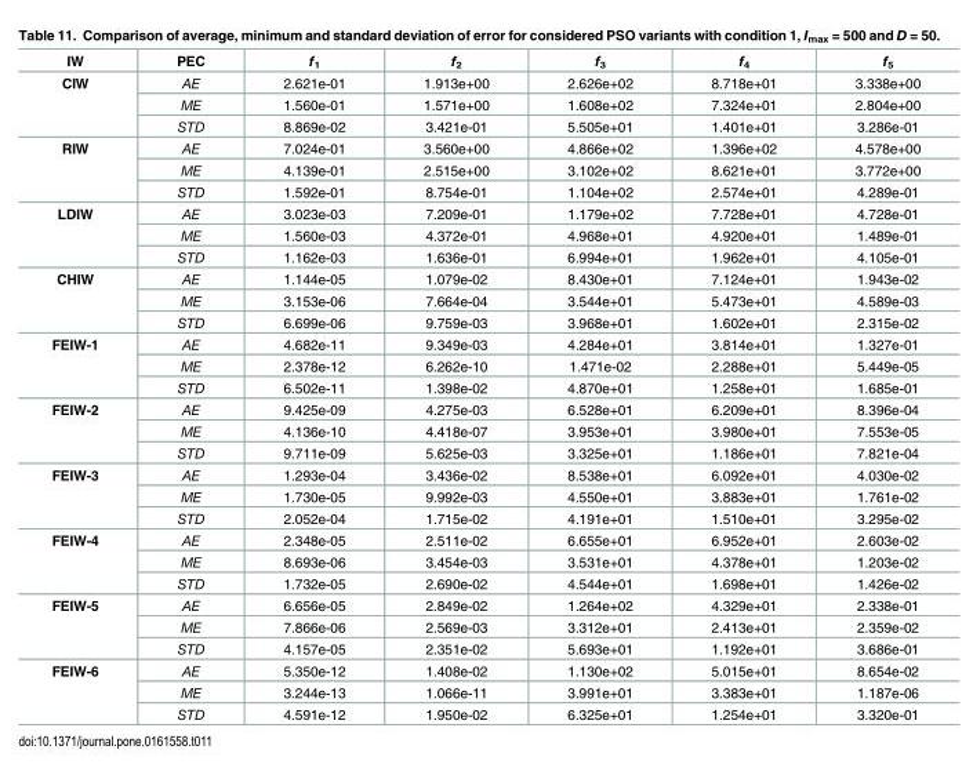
<table><thead><tr><td>IW</td><td>PEC</td><td>f<sub>1</sub></td><td>f<sub>2</sub></td><td>f<sub>3</sub></td><td>f<sub>4</sub></td><td>f<sub>5</sub></td></tr></thead><tbody><tr><td rowspan="3">CIW</td><td>AE</td><td>2.621e-01</td><td>1.913e+00</td><td>2.626e+02</td><td>8.718e+01</td><td>3.338e+00</td></tr><tr><td>ME</td><td>1.560e-01</td><td>1.571e+00</td><td>1.608e+02</td><td>7.324e+01</td><td>2.804e+00</td></tr><tr><td>STD</td><td>8.869e-02</td><td>3.421e-01</td><td>5.505e+01</td><td>1.401e+01</td><td>3.286e-01</td></tr><tr><td rowspan="3">RIW</td><td>AE</td><td>7.024e-01</td><td>3.560e+00</td><td>4.866e+02</td><td>1.396e+02</td><td>4.578e+00</td></tr><tr><td>ME</td><td>4.139e-01</td><td>2.515e+00</td><td>3.102e+02</td><td>8.621e+01</td><td>3.772e+00</td></tr><tr><td>STD</td><td>1.592e-01</td><td>8.754e-01</td><td>1.104e+02</td><td>2.574e+01</td><td>4.289e-01</td></tr><tr><td rowspan="3">LDIW</td><td>AE</td><td>3.023e-03</td><td>7.209e-01</td><td>1.179e+02</td><td>7.728e+01</td><td>4.728e-01</td></tr><tr><td>ME</td><td>1.560e-03</td><td>4.372e-01</td><td>4.968e+01</td><td>4.920e+01</td><td>1.489e-01</td></tr><tr><td>STD</td><td>1.162e-03</td><td>1.636e-01</td><td>6.994e+01</td><td>1.962e+01</td><td>4.105e-01</td></tr><tr><td rowspan="3">CHIW</td><td>AE</td><td>1.144e-05</td><td>1.079e-02</td><td>8.430e+01</td><td>7.124e+01</td><td>1.943e-02</td></tr><tr><td>ME</td><td>3.153e-06</td><td>7.664e-04</td><td>3.544e+01</td><td>5.473e+01</td><td>4.589e-03</td></tr><tr><td>STD</td><td>6.699e-06</td><td>9.759e-03</td><td>3.968e+01</td><td>1.602e+01</td><td>2.315e-02</td></tr><tr><td rowspan="3">FEIW-1</td><td>AE</td><td>4.682e-11</td><td>9.349e-03</td><td>4.284e+01</td><td>3.814e+01</td><td>1.327e-01</td></tr><tr><td>ME</td><td>2.378e-12</td><td>6.262e-10</td><td>1.471e-02</td><td>2.288e+01</td><td>5.449e-05</td></tr><tr><td>STD</td><td>6.502e-11</td><td>1.398e-02</td><td>4.870e+01</td><td>1.258e+01</td><td>1.685e-01</td></tr><tr><td rowspan="3">FEIW-2</td><td>AE</td><td>9.425e-09</td><td>4.275e-03</td><td>6.528e+01</td><td>6.209e+01</td><td>8.396e-04</td></tr><tr><td>ME</td><td>4.136e-10</td><td>4.418e-07</td><td>3.953e+01</td><td>3.980e+01</td><td>7.553e-05</td></tr><tr><td>STD</td><td>9.711e-09</td><td>5.625e-03</td><td>3.325e+01</td><td>1.186e+01</td><td>7.821e-04</td></tr><tr><td rowspan="3">FEIW-3</td><td>AE</td><td>1.293e-04</td><td>3.436e-02</td><td>8.538e+01</td><td>6.092e+01</td><td>4.030e-02</td></tr><tr><td>ME</td><td>1.730e-05</td><td>9.992e-03</td><td>4.550e+01</td><td>3.883e+01</td><td>1.761e-02</td></tr><tr><td>STD</td><td>2.052e-04</td><td>1.715e-02</td><td>4.191e+01</td><td>1.510e+01</td><td>3.295e-02</td></tr><tr><td rowspan="3">FEIW-4</td><td>AE</td><td>2.348e-05</td><td>2.511e-02</td><td>6.655e+01</td><td>6.952e+01</td><td>2.603e-02</td></tr><tr><td>ME</td><td>8.693e-06</td><td>3.454e-03</td><td>3.531e+01</td><td>4.378e+01</td><td>1.203e-02</td></tr><tr><td>STD</td><td>1.732e-05</td><td>2.690e-02</td><td>4.544e+01</td><td>1.698e+01</td><td>1.426e-02</td></tr><tr><td rowspan="3">FEIW-5</td><td>AE</td><td>6.656e-05</td><td>2.849e-02</td><td>1.264e+02</td><td>4.329e+01</td><td>2.338e-01</td></tr><tr><td>ME</td><td>7.866e-06</td><td>2.569e-03</td><td>3.312e+01</td><td>2.413e+01</td><td>2.359e-02</td></tr><tr><td>STD</td><td>4.157e-05</td><td>2.351e-02</td><td>5.693e+01</td><td>1.192e+01</td><td>3.686e-01</td></tr><tr><td rowspan="3">FEIW-6</td><td>AE</td><td>5.350e-12</td><td>1.408e-02</td><td>1.130e+02</td><td>5.015e+01</td><td>8.654e-02</td></tr><tr><td>ME</td><td>3.244e-13</td><td>1.066e-11</td><td>3.991e+01</td><td>3.383e+01</td><td>1.187e-06</td></tr><tr><td>STD</td><td>4.591e-12</td><td>1.950e-02</td><td>6.325e+01</td><td>1.254e+01</td><td>3.320e-01</td></tr></tbody></table>